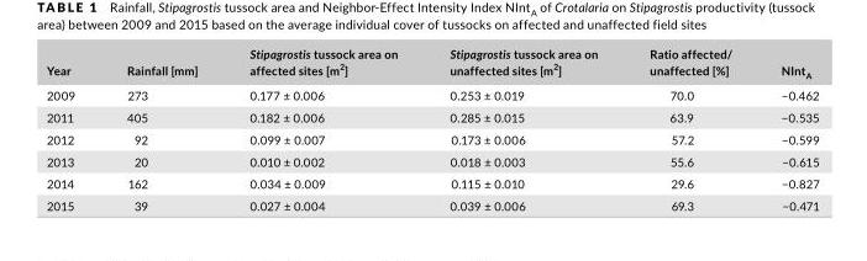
<table><thead><tr><td>Year</td><td>Rainfall [mm]</td><td>Stipagrostis tussock area on affected sites [m<sup>2</sup>]</td><td>Stipagrostis tussock area on unaffected sites [m<sup>2</sup>]</td><td>Ratio affected/ unaffected [%]</td><td>NInt<sub>A</sub></td></tr></thead><tbody><tr><td>2009</td><td>273</td><td>0.177 ± 0.006</td><td>0.253 ± 0.019</td><td>70.0</td><td>−0.462</td></tr><tr><td>2011</td><td>405</td><td>0.182 ± 0.006</td><td>0.285 ± 0.015</td><td>63.9</td><td>−0.535</td></tr><tr><td>2012</td><td>92</td><td>0.099 ± 0.007</td><td>0.173 ± 0.006</td><td>57.2</td><td>−0.599</td></tr><tr><td>2013</td><td>20</td><td>0.010 ± 0.002</td><td>0.018 ± 0.003</td><td>55.6</td><td>−0.615</td></tr><tr><td>2014</td><td>162</td><td>0.034 ± 0.009</td><td>0.115 ± 0.010</td><td>29.6</td><td>−0.827</td></tr><tr><td>2015</td><td>39</td><td>0.027 ± 0.004</td><td>0.039 ± 0.006</td><td>69.3</td><td>−0.471</td></tr></tbody></table>